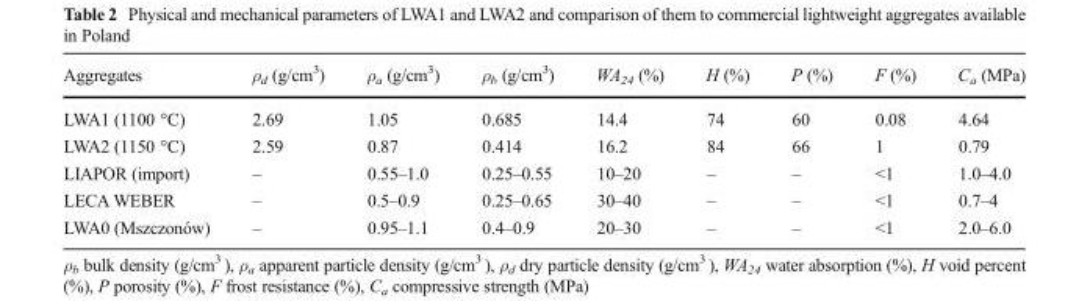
<table><thead><tr><td>Aggregates</td><td>ρ<sub>d</sub> (g/cm<sup>3</sup>)</td><td>ρ<sub>a</sub> (g/cm<sup>3</sup>)</td><td>ρ<sub>b</sub> (g/cm<sup>3</sup>)</td><td>WA<sub>24</sub> (%)</td><td>H (%)</td><td>P (%)</td><td>F (%)</td><td>C<sub>a</sub> (MPa)</td></tr></thead><tbody><tr><td>LWA1 (1100 °C)</td><td>2.69</td><td>1.05</td><td>0.685</td><td>14.4</td><td>74</td><td>60</td><td>0.08</td><td>4.64</td></tr><tr><td>LWA2 (1150 °C)</td><td>2.59</td><td>0.87</td><td>0.414</td><td>16.2</td><td>84</td><td>66</td><td>1</td><td>0.79</td></tr><tr><td>LIAPOR (import)</td><td>–</td><td>0.55–1.0</td><td>0.25–0.55</td><td>10–20</td><td>–</td><td>–</td><td>&lt;1</td><td>1.0–4.0</td></tr><tr><td>LECA WEBER</td><td>–</td><td>0.5–0.9</td><td>0.25–0.65</td><td>30–40</td><td>–</td><td>–</td><td>&lt;1</td><td>0.7–4</td></tr><tr><td>LWA0 (Mszczonów)</td><td>–</td><td>0.95–1.1</td><td>0.4–0.9</td><td>20–30</td><td>–</td><td>–</td><td>&lt;1</td><td>2.0–6.0</td></tr></tbody></table>